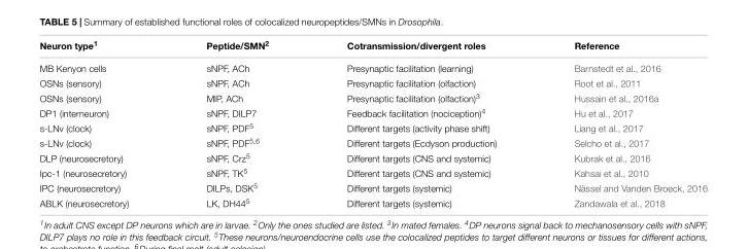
<table><thead><tr><td>Neuron type<sup>1</sup></td><td>Peptide/SMN<sup>2</sup></td><td>Cotransmission/divergent roles</td><td>Reference</td></tr></thead><tbody><tr><td>MB Kenyon cells</td><td>sNPF, ACh</td><td>Presynaptic facilitation (learning)</td><td>Barnstedt et al., 2016</td></tr><tr><td>OSNs (sensory)</td><td>sNPF, ACh</td><td>Presynaptic facilitation (olfaction)</td><td>Root et al., 2011</td></tr><tr><td>OSNs (sensory)</td><td>MIP, ACh</td><td>Presynaptic facilitation (olfaction)<sup>3</sup></td><td>Hussain et al., 2016a</td></tr><tr><td>DP1 (interneuron)</td><td>sNPF, DILP7</td><td>Feedback facilitation (nociception)<sup>4</sup></td><td>Hu et al., 2017</td></tr><tr><td>s-LNv (clock)</td><td>sNPF, PDF<sup>5</sup></td><td>Different targets (activity phase shift)</td><td>Liang et al., 2017</td></tr><tr><td>s-LNv (clock)</td><td>sNPF, PDF<sup>5,6</sup></td><td>Different targets (Ecdyson production)</td><td>Selcho et al., 2017</td></tr><tr><td>DLP (neurosecretory)</td><td>sNPF, Crz<sup>5</sup></td><td>Different targets (CNS and systemic)</td><td>Kubrak et al., 2016</td></tr><tr><td>Ipc-1 (neurosecretory)</td><td>sNPF, TK<sup>5</sup></td><td>Different targets (CNS and systemic)</td><td>Kahsai et al., 2010</td></tr><tr><td>IPC (neurosecretory)</td><td>DILPs, DSK<sup>5</sup></td><td>Different targets (systemic)</td><td>Nässel and Vanden Broeck, 2016</td></tr><tr><td>ABLK (neurosecretory)</td><td>LK, DH44<sup>5</sup></td><td>Different targets (systemic)</td><td>Zandawala et al., 2018</td></tr></tbody></table>